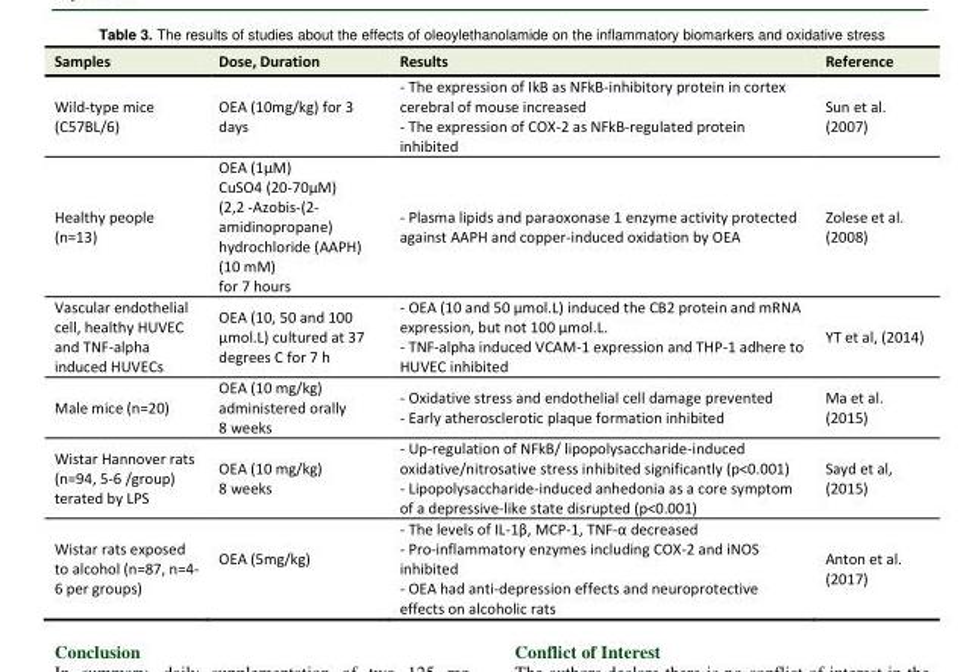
<table><tbody><tr><td>Samples</td><td>Dose, Duration</td><td>Results</td><td>Reference</td></tr><tr><td>Wild-type mice (C57BL/6)</td><td>OEA (10mg/kg) for 3 days</td><td>- The expression of IkB as NFkB-inhibitory protein in cortex cerebral of mouse increased - The expression of COX-2 as NFkB-regulated protein inhibited</td><td>Sun et al. (2007)</td></tr><tr><td>Healthy people (n=13)</td><td>OEA (1µM) CuSO4 (20-70µM) (2,2 -Azobis-(2- amidinopropane) hydrochloride (AAPH) (10 mM) for 7 hours</td><td>- Plasma lipids and paraoxonase 1 enzyme activity protected against AAPH and copper-induced oxidation by OEA</td><td>Zolese et al. (2008)</td></tr><tr><td>Vascular endothelial cell, healthy HUVEC and TNF-alpha induced HUVECs</td><td>OEA (10, 50 and 100 µmol.L) cultured at 37 degrees C for 7 h</td><td>- OEA (10 and 50 µmol.L) induced the CB2 protein and mRNA expression, but not 100 µmol.L. - TNF-alpha induced VCAM-1 expression and THP-1 adhere to HUVEC inhibited</td><td>YT et al, (2014)</td></tr><tr><td>Male mice (n=20)</td><td>OEA (10 mg/kg) administered orally 8 weeks</td><td>- Oxidative stress and endothelial cell damage prevented - Early atherosclerotic plaque formation inhibited</td><td>Ma et al. (2015)</td></tr><tr><td>Wistar Hannover rats (n=94, 5-6 /group) terated by LPS</td><td>OEA (10 mg/kg) 8 weeks</td><td>- Up-regulation of NFkB/ lipopolysaccharide-induced oxidative/nitrosative stress inhibited significantly (p&lt;0.001) - Lipopolysaccharide-induced anhedonia as a core symptom of a depressive-like state disrupted (p&lt;0.001)</td><td>Sayd et al, (2015)</td></tr><tr><td>Wistar rats exposed to alcohol (n=87, n=4- 6 per groups)</td><td>OEA (5mg/kg)</td><td>- The levels of IL-1β, MCP-1, TNF-α decreased - Pro-inflammatory enzymes including COX-2 and iNOS inhibited - OEA had anti-depression effects and neuroprotective effects on alcoholic rats</td><td>Anton et al. (2017)</td></tr></tbody></table>